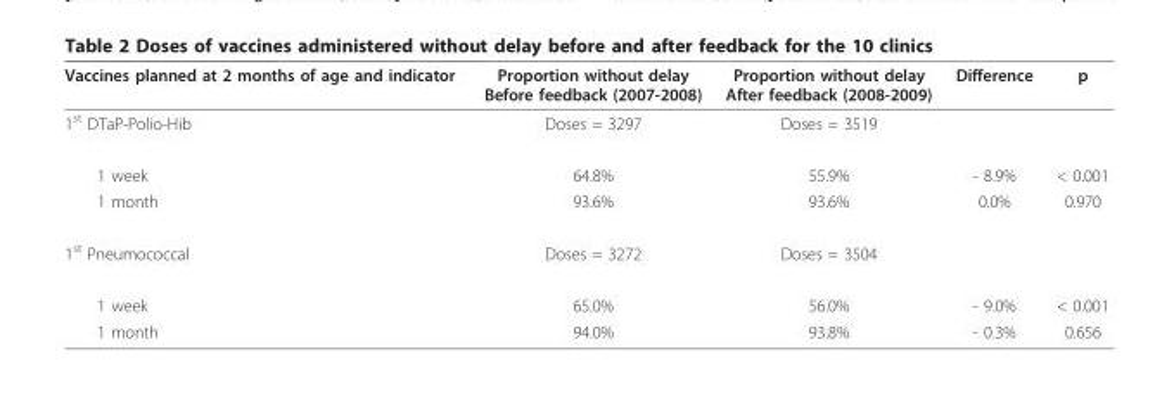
<table><thead><tr><td>Vaccines planned at 2 months of age and indicator</td><td>Proportion without delay Before feedback (2007-2008)</td><td>Proportion without delay After feedback (2008-2009)</td><td>Difference</td><td>p</td></tr></thead><tbody><tr><td>1<sup>st</sup> DTaP-Polio-Hib</td><td>Doses = 3297</td><td>Doses = 3519</td><td></td><td></td></tr><tr><td>1 week</td><td>64.8%</td><td>55.9%</td><td>- 8.9%</td><td>&lt; 0.001</td></tr><tr><td>1 month</td><td>93.6%</td><td>93.6%</td><td>0.0%</td><td>0.970</td></tr><tr><td>1<sup>st</sup> Pneumococcal</td><td>Doses = 3272</td><td>Doses = 3504</td><td></td><td></td></tr><tr><td>1 week</td><td>65.0%</td><td>56.0%</td><td>- 9.0%</td><td>&lt; 0.001</td></tr><tr><td>1 month</td><td>94.0%</td><td>93.8%</td><td>- 0.3%</td><td>0.656</td></tr></tbody></table>